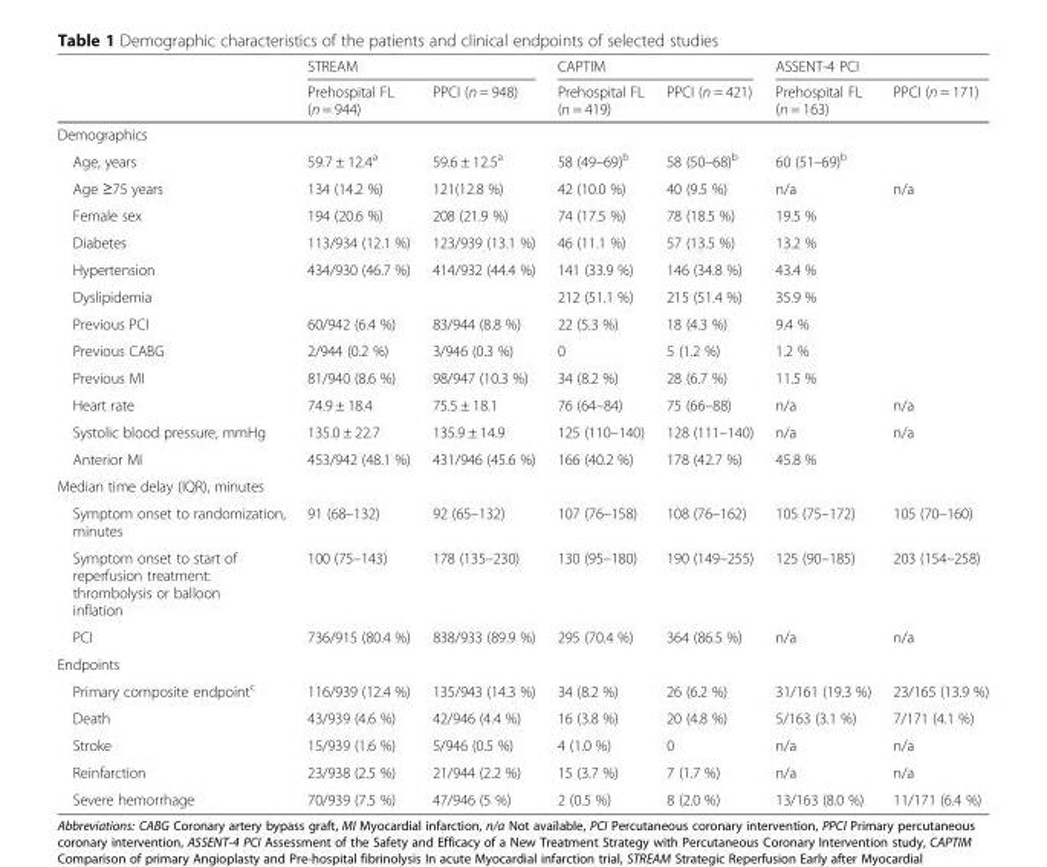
<table><thead><tr><td rowspan="2"></td><td colspan="2">STREAM</td><td colspan="2">CAPTIM</td><td colspan="2">ASSENT-4 PCI</td></tr><tr><td>Prehospital FL (n = 944)</td><td>PPCI (n = 948)</td><td>Prehospital FL (n = 419)</td><td>PPCI (n = 421)</td><td>Prehospital FL (n = 163)</td><td>PPCI (n = 171)</td></tr></thead><tbody><tr><td colspan="7">Demographics</td></tr><tr><td>Age, years</td><td>59.7 ± 12.4<sup>a</sup></td><td>59.6 ± 12.5<sup>a</sup></td><td>58 (49–69)<sup>b</sup></td><td>58 (50–68)<sup>b</sup></td><td colspan="2">60 (51–69)<sup>b</sup></td></tr><tr><td>Age ≥75 years</td><td>134 (14.2 %)</td><td>121(12.8 %)</td><td>42 (10.0 %)</td><td>40 (9.5 %)</td><td>n/a</td><td>n/a</td></tr><tr><td>Female sex</td><td>194 (20.6 %)</td><td>208 (21.9 %)</td><td>74 (17.5 %)</td><td>78 (18.5 %)</td><td colspan="2">19.5 %</td></tr><tr><td>Diabetes</td><td>113/934 (12.1 %)</td><td>123/939 (13.1 %)</td><td>46 (11.1 %)</td><td>57 (13.5 %)</td><td colspan="2">13.2 %</td></tr><tr><td>Hypertension</td><td>434/930 (46.7 %)</td><td>414/932 (44.4 %)</td><td>141 (33.9 %)</td><td>146 (34.8 %)</td><td colspan="2">43.4 %</td></tr><tr><td>Dyslipidemia</td><td></td><td></td><td>212 (51.1 %)</td><td>215 (51.4 %)</td><td colspan="2">35.9 %</td></tr><tr><td>Previous PCI</td><td>60/942 (6.4 %)</td><td>83/944 (8.8 %)</td><td>22 (5.3 %)</td><td>18 (4.3 %)</td><td colspan="2">9.4 %</td></tr><tr><td>Previous CABG</td><td>2/944 (0.2 %)</td><td>3/946 (0.3 %)</td><td>0</td><td>5 (1.2 %)</td><td colspan="2">1.2 %</td></tr><tr><td>Previous MI</td><td>81/940 (8.6 %)</td><td>98/947 (10.3 %)</td><td>34 (8.2 %)</td><td>28 (6.7 %)</td><td colspan="2">11.5 %</td></tr><tr><td>Heart rate</td><td>74.9 ± 18.4</td><td>75.5 ± 18.1</td><td>76 (64–84)</td><td>75 (66–88)</td><td>n/a</td><td>n/a</td></tr><tr><td>Systolic blood pressure, mmHg</td><td>135.0 ± 22.7</td><td>135.9 ± 14.9</td><td>125 (110–140)</td><td>128 (111–140)</td><td>n/a</td><td>n/a</td></tr><tr><td>Anterior MI</td><td>453/942 (48.1 %)</td><td>431/946 (45.6 %)</td><td>166 (40.2 %)</td><td>178 (42.7 %)</td><td colspan="2">45.8 %</td></tr><tr><td colspan="7">Median time delay (IQR), minutes</td></tr><tr><td>Symptom onset to randomization, minutes</td><td>91 (68–132)</td><td>92 (65–132)</td><td>107 (76–158)</td><td>108 (76–162)</td><td>105 (75–172)</td><td>105 (70–160)</td></tr><tr><td>Symptom onset to start of reperfusion treatment: thrombolysis or balloon inflation</td><td>100 (75–143)</td><td>178 (135–230)</td><td>130 (95–180)</td><td>190 (149–255)</td><td>125 (90–185)</td><td>203 (154–258)</td></tr><tr><td>PCI</td><td>736/915 (80.4 %)</td><td>838/933 (89.9 %)</td><td>295 (70.4 %)</td><td>364 (86.5 %)</td><td>n/a</td><td>n/a</td></tr><tr><td colspan="7">Endpoints</td></tr><tr><td>Primary composite endpoint<sup>c</sup></td><td>116/939 (12.4 %)</td><td>135/943 (14.3 %)</td><td>34 (8.2 %)</td><td>26 (6.2 %)</td><td>31/161 (19.3 %)</td><td>23/165 (13.9 %)</td></tr><tr><td>Death</td><td>43/939 (4.6 %)</td><td>42/946 (4.4 %)</td><td>16 (3.8 %)</td><td>20 (4.8 %)</td><td>5/163 (3.1 %)</td><td>7/171 (4.1 %)</td></tr><tr><td>Stroke</td><td>15/939 (1.6 %)</td><td>5/946 (0.5 %)</td><td>4 (1.0 %)</td><td>0</td><td>n/a</td><td>n/a</td></tr><tr><td>Reinfarction</td><td>23/938 (2.5 %)</td><td>21/944 (2.2 %)</td><td>15 (3.7 %)</td><td>7 (1.7 %)</td><td>n/a</td><td>n/a</td></tr><tr><td>Severe hemorrhage</td><td>70/939 (7.5 %)</td><td>47/946 (5 %)</td><td>2 (0.5 %)</td><td>8 (2.0 %)</td><td>13/163 (8.0 %)</td><td>11/171 (6.4 %)</td></tr></tbody></table>